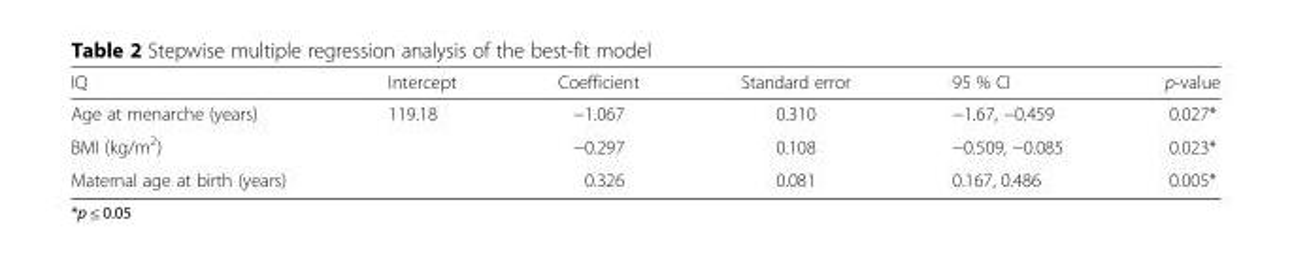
<table><thead><tr><td>IQ</td><td>Intercept</td><td>Coefficient</td><td>Standard error</td><td>95 % CI</td><td>p-value</td></tr></thead><tbody><tr><td>Age at menarche (years)</td><td>119.18</td><td>−1.067</td><td>0.310</td><td>−1.67, −0.459</td><td>0.027*</td></tr><tr><td>BMI (kg/m<sup>2</sup>)</td><td></td><td>−0.297</td><td>0.108</td><td>−0.509, −0.085</td><td>0.023*</td></tr><tr><td>Maternal age at birth (years)</td><td></td><td>0.326</td><td>0.081</td><td>0.167, 0.486</td><td>0.005*</td></tr></tbody></table>